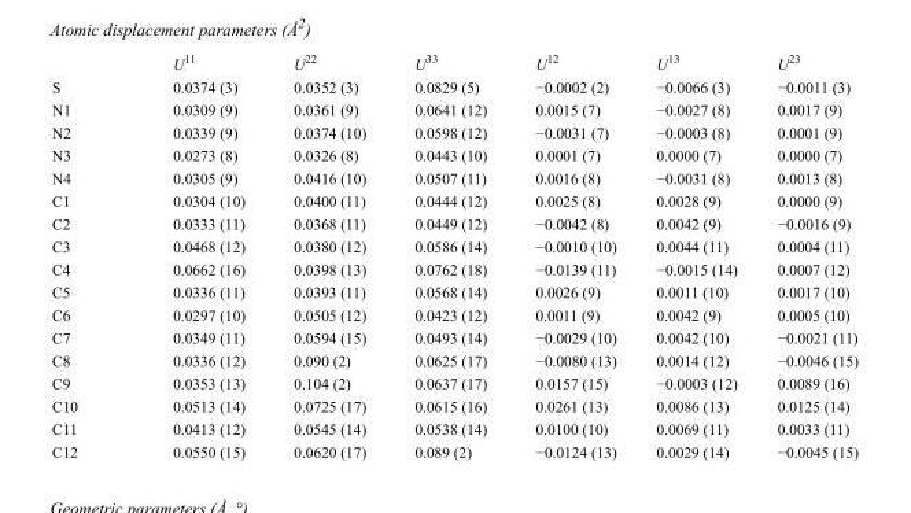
<table><thead><tr><td></td><td>U<sup>11</sup></td><td>U<sup>22</sup></td><td>U<sup>33</sup></td><td>U<sup>12</sup></td><td>U<sup>13</sup></td><td>U<sup>23</sup></td></tr></thead><tbody><tr><td>S</td><td>0.0374 (3)</td><td>0.0352 (3)</td><td>0.0829 (5)</td><td>−0.0002 (2)</td><td>−0.0066 (3)</td><td>−0.0011 (3)</td></tr><tr><td>N1</td><td>0.0309 (9)</td><td>0.0361 (9)</td><td>0.0641 (12)</td><td>0.0015 (7)</td><td>−0.0027 (8)</td><td>0.0017 (9)</td></tr><tr><td>N2</td><td>0.0339 (9)</td><td>0.0374 (10)</td><td>0.0598 (12)</td><td>−0.0031 (7)</td><td>−0.0003 (8)</td><td>0.0001 (9)</td></tr><tr><td>N3</td><td>0.0273 (8)</td><td>0.0326 (8)</td><td>0.0443 (10)</td><td>0.0001 (7)</td><td>0.0000 (7)</td><td>0.0000 (7)</td></tr><tr><td>N4</td><td>0.0305 (9)</td><td>0.0416 (10)</td><td>0.0507 (11)</td><td>0.0016 (8)</td><td>−0.0031 (8)</td><td>0.0013 (8)</td></tr><tr><td>C1</td><td>0.0304 (10)</td><td>0.0400 (11)</td><td>0.0444 (12)</td><td>0.0025 (8)</td><td>0.0028 (9)</td><td>0.0000 (9)</td></tr><tr><td>C2</td><td>0.0333 (11)</td><td>0.0368 (11)</td><td>0.0449 (12)</td><td>−0.0042 (8)</td><td>0.0042 (9)</td><td>−0.0016 (9)</td></tr><tr><td>C3</td><td>0.0468 (12)</td><td>0.0380 (12)</td><td>0.0586 (14)</td><td>−0.0010 (10)</td><td>0.0044 (11)</td><td>0.0004 (11)</td></tr><tr><td>C4</td><td>0.0662 (16)</td><td>0.0398 (13)</td><td>0.0762 (18)</td><td>−0.0139 (11)</td><td>−0.0015 (14)</td><td>0.0007 (12)</td></tr><tr><td>C5</td><td>0.0336 (11)</td><td>0.0393 (11)</td><td>0.0568 (14)</td><td>0.0026 (9)</td><td>0.0011 (10)</td><td>0.0017 (10)</td></tr><tr><td>C6</td><td>0.0297 (10)</td><td>0.0505 (12)</td><td>0.0423 (12)</td><td>0.0011 (9)</td><td>0.0042 (9)</td><td>0.0005 (10)</td></tr><tr><td>C7</td><td>0.0349 (11)</td><td>0.0594 (15)</td><td>0.0493 (14)</td><td>−0.0029 (10)</td><td>0.0042 (10)</td><td>−0.0021 (11)</td></tr><tr><td>C8</td><td>0.0336 (12)</td><td>0.090 (2)</td><td>0.0625 (17)</td><td>−0.0080 (13)</td><td>0.0014 (12)</td><td>−0.0046 (15)</td></tr><tr><td>C9</td><td>0.0353 (13)</td><td>0.104 (2)</td><td>0.0637 (17)</td><td>0.0157 (15)</td><td>−0.0003 (12)</td><td>0.0089 (16)</td></tr><tr><td>C10</td><td>0.0513 (14)</td><td>0.0725 (17)</td><td>0.0615 (16)</td><td>0.0261 (13)</td><td>0.0086 (13)</td><td>0.0125 (14)</td></tr><tr><td>C11</td><td>0.0413 (12)</td><td>0.0545 (14)</td><td>0.0538 (14)</td><td>0.0100 (10)</td><td>0.0069 (11)</td><td>0.0033 (11)</td></tr><tr><td>C12</td><td>0.0550 (15)</td><td>0.0620 (17)</td><td>0.089 (2)</td><td>−0.0124 (13)</td><td>0.0029 (14)</td><td>−0.0045 (15)</td></tr></tbody></table>